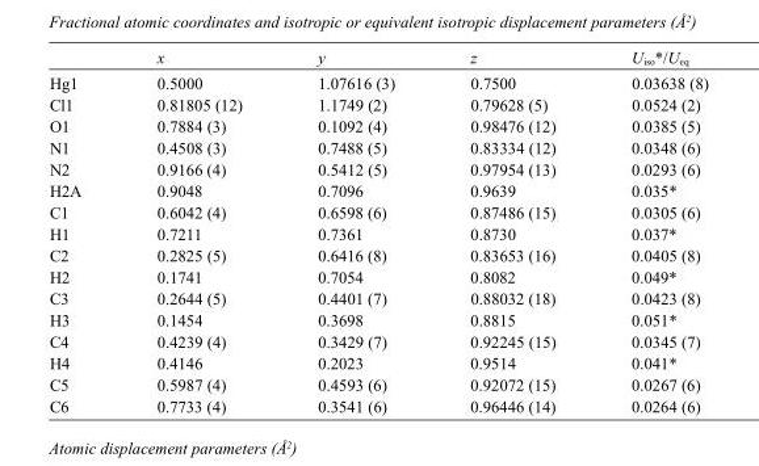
<table><thead><tr><td></td><td>x</td><td>y</td><td>z</td><td>U<sub>iso</sub>*/U<sub>eq</sub></td></tr></thead><tbody><tr><td>Hg1</td><td>0.5000</td><td>1.07616 (3)</td><td>0.7500</td><td>0.03638 (8)</td></tr><tr><td>Cl1</td><td>0.81805 (12)</td><td>1.1749 (2)</td><td>0.79628 (5)</td><td>0.0524 (2)</td></tr><tr><td>O1</td><td>0.7884 (3)</td><td>0.1092 (4)</td><td>0.98476 (12)</td><td>0.0385 (5)</td></tr><tr><td>N1</td><td>0.4508 (3)</td><td>0.7488 (5)</td><td>0.83334 (12)</td><td>0.0348 (6)</td></tr><tr><td>N2</td><td>0.9166 (4)</td><td>0.5412 (5)</td><td>0.97954 (13)</td><td>0.0293 (6)</td></tr><tr><td>H2A</td><td>0.9048</td><td>0.7096</td><td>0.9639</td><td>0.035*</td></tr><tr><td>C1</td><td>0.6042 (4)</td><td>0.6598 (6)</td><td>0.87486 (15)</td><td>0.0305 (6)</td></tr><tr><td>H1</td><td>0.7211</td><td>0.7361</td><td>0.8730</td><td>0.037*</td></tr><tr><td>C2</td><td>0.2825 (5)</td><td>0.6416 (8)</td><td>0.83653 (16)</td><td>0.0405 (8)</td></tr><tr><td>H2</td><td>0.1741</td><td>0.7054</td><td>0.8082</td><td>0.049*</td></tr><tr><td>C3</td><td>0.2644 (5)</td><td>0.4401 (7)</td><td>0.88032 (18)</td><td>0.0423 (8)</td></tr><tr><td>H3</td><td>0.1454</td><td>0.3698</td><td>0.8815</td><td>0.051*</td></tr><tr><td>C4</td><td>0.4239 (4)</td><td>0.3429 (7)</td><td>0.92245 (15)</td><td>0.0345 (7)</td></tr><tr><td>H4</td><td>0.4146</td><td>0.2023</td><td>0.9514</td><td>0.041*</td></tr><tr><td>C5</td><td>0.5987 (4)</td><td>0.4593 (6)</td><td>0.92072 (15)</td><td>0.0267 (6)</td></tr><tr><td>C6</td><td>0.7733 (4)</td><td>0.3541 (6)</td><td>0.96446 (14)</td><td>0.0264 (6)</td></tr></tbody></table>